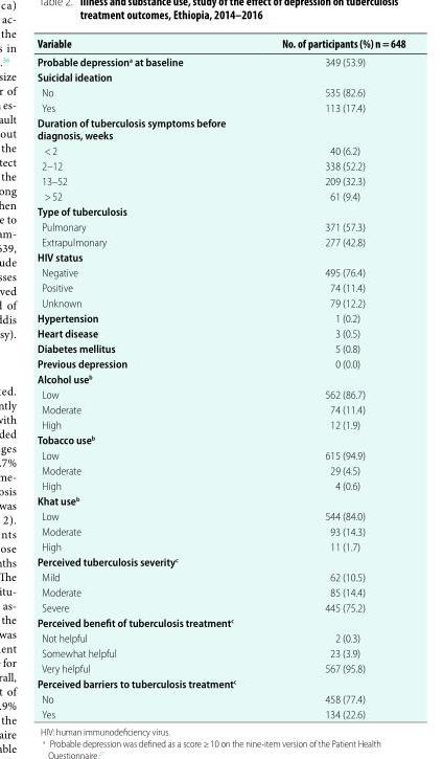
<table><thead><tr><td>Variable</td><td>No. of participants (%) n = 648</td></tr></thead><tbody><tr><td>Probable depression<sup>a</sup> at baseline</td><td>349 (53.9)</td></tr><tr><td colspan="2">Suicidal ideation</td></tr><tr><td>No</td><td>535 (82.6)</td></tr><tr><td>Yes</td><td>113 (17.4)</td></tr><tr><td colspan="2">Duration of tuberculosis symptoms before diagnosis, weeks</td></tr><tr><td>&lt; 2</td><td>40 (6.2)</td></tr><tr><td>2–12</td><td>338 (52.2)</td></tr><tr><td>13–52</td><td>209 (32.3)</td></tr><tr><td>&gt; 52</td><td>61 (9.4)</td></tr><tr><td colspan="2">Type of tuberculosis</td></tr><tr><td>Pulmonary</td><td>371 (57.3)</td></tr><tr><td>Extrapulmonary</td><td>277 (42.8)</td></tr><tr><td colspan="2">HIV status</td></tr><tr><td>Negative</td><td>495 (76.4)</td></tr><tr><td>Positive</td><td>74 (11.4)</td></tr><tr><td>Unknown</td><td>79 (12.2)</td></tr><tr><td>Hypertension</td><td>1 (0.2)</td></tr><tr><td>Heart disease</td><td>3 (0.5)</td></tr><tr><td>Diabetes mellitus</td><td>5 (0.8)</td></tr><tr><td>Previous depression</td><td>0 (0.0)</td></tr><tr><td colspan="2">Alcohol use<sup>b</sup></td></tr><tr><td>Low</td><td>562 (86.7)</td></tr><tr><td>Moderate</td><td>74 (11.4)</td></tr><tr><td>High</td><td>12 (1.9)</td></tr><tr><td colspan="2">Tobacco use<sup>b</sup></td></tr><tr><td>Low</td><td>615 (94.9)</td></tr><tr><td>Moderate</td><td>29 (4.5)</td></tr><tr><td>High</td><td>4 (0.6)</td></tr><tr><td colspan="2">Khat use<sup>b</sup></td></tr><tr><td>Low</td><td>544 (84.0)</td></tr><tr><td>Moderate</td><td>93 (14.3)</td></tr><tr><td>High</td><td>11 (1.7)</td></tr><tr><td colspan="2">Perceived tuberculosis severity<sup>c</sup></td></tr><tr><td>Mild</td><td>62 (10.5)</td></tr><tr><td>Moderate</td><td>85 (14.4)</td></tr><tr><td>Severe</td><td>445 (75.2)</td></tr><tr><td colspan="2">Perceived benefit of tuberculosis treatment<sup>c</sup></td></tr><tr><td>Not helpful</td><td>2 (0.3)</td></tr><tr><td>Somewhat helpful</td><td>23 (3.9)</td></tr><tr><td>Very helpful</td><td>567 (95.8)</td></tr><tr><td colspan="2">Perceived barriers to tuberculosis treatment<sup>c</sup></td></tr><tr><td>No</td><td>458 (77.4)</td></tr><tr><td>Yes</td><td>134 (22.6)</td></tr></tbody></table>